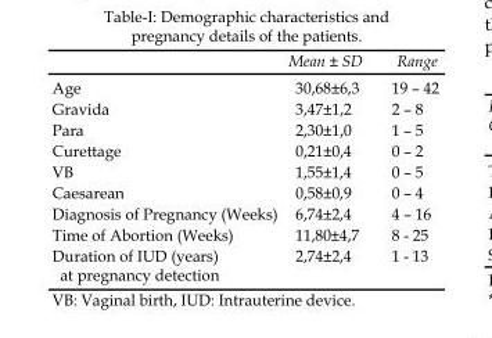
<table><thead><tr><td></td><td>Mean ± SD</td><td>Range</td></tr></thead><tbody><tr><td>Age</td><td>30,68±6,3</td><td>19 – 42</td></tr><tr><td>Gravida</td><td>3,47±1,2</td><td>2 – 8</td></tr><tr><td>Para</td><td>2,30±1,0</td><td>1 – 5</td></tr><tr><td>Curettage</td><td>0,21±0,4</td><td>0 – 2</td></tr><tr><td>VB</td><td>1,55±1,4</td><td>0 – 5</td></tr><tr><td>Caesarean</td><td>0,58±0,9</td><td>0 – 4</td></tr><tr><td>Diagnosis of Pregnancy (Weeks)</td><td>6,74±2,4</td><td>4 – 16</td></tr><tr><td>Time of Abortion (Weeks)</td><td>11,80±4,7</td><td>8 - 25</td></tr><tr><td>Duration of IUD (years) at pregnancy detection</td><td>2,74±2,4</td><td>1 - 13</td></tr></tbody></table>